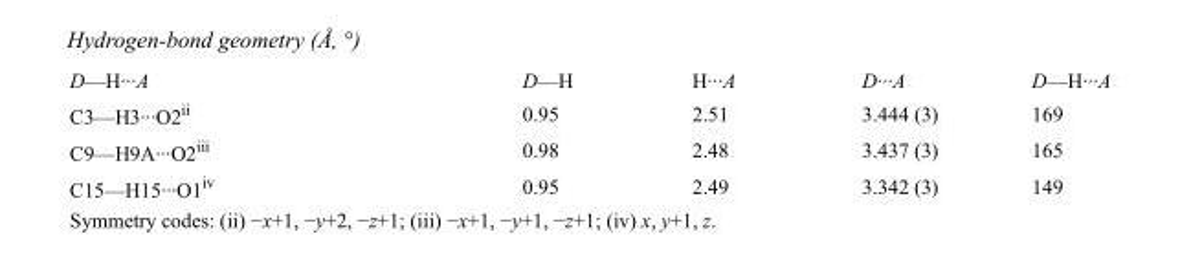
<table><tbody><tr><td>D—H···A</td><td>D—H</td><td>H···A</td><td>D···A</td><td>D—H···A</td></tr><tr><td>C3—H3···O2<sup>ii</sup></td><td>0.95</td><td>2.51</td><td>3.444 (3)</td><td>169</td></tr><tr><td>C9—H9A···O2<sup>iii</sup></td><td>0.98</td><td>2.48</td><td>3.437 (3)</td><td>165</td></tr><tr><td>C15—H15···O1<sup>iv</sup></td><td>0.95</td><td>2.49</td><td>3.342 (3)</td><td>149</td></tr></tbody></table>